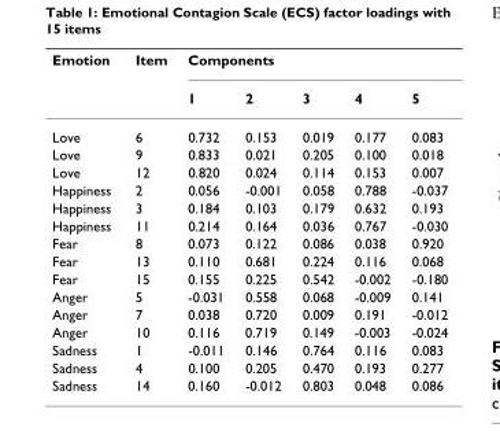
<table><thead><tr><td rowspan="2">Emotion</td><td rowspan="2">Item</td><td colspan="5">Components</td></tr><tr><td>1</td><td>2</td><td>3</td><td>4</td><td>5</td></tr></thead><tbody><tr><td>Love</td><td>6</td><td>0.732</td><td>0.153</td><td>0.019</td><td>0.177</td><td>0.083</td></tr><tr><td>Love</td><td>9</td><td>0.833</td><td>0.021</td><td>0.205</td><td>0.100</td><td>0.018</td></tr><tr><td>Love</td><td>12</td><td>0.820</td><td>0.024</td><td>0.114</td><td>0.153</td><td>0.007</td></tr><tr><td>Happiness</td><td>2</td><td>0.056</td><td>-0.001</td><td>0.058</td><td>0.788</td><td>-0.037</td></tr><tr><td>Happiness</td><td>3</td><td>0.184</td><td>0.103</td><td>0.179</td><td>0.632</td><td>0.193</td></tr><tr><td>Happiness</td><td>11</td><td>0.214</td><td>0.164</td><td>0.036</td><td>0.767</td><td>-0.030</td></tr><tr><td>Fear</td><td>8</td><td>0.073</td><td>0.122</td><td>0.086</td><td>0.038</td><td>0.920</td></tr><tr><td>Fear</td><td>13</td><td>0.110</td><td>0.681</td><td>0.224</td><td>0.116</td><td>0.068</td></tr><tr><td>Fear</td><td>15</td><td>0.155</td><td>0.225</td><td>0.542</td><td>-0.002</td><td>-0.180</td></tr><tr><td>Anger</td><td>5</td><td>-0.031</td><td>0.558</td><td>0.068</td><td>-0.009</td><td>0.141</td></tr><tr><td>Anger</td><td>7</td><td>0.038</td><td>0.720</td><td>0.009</td><td>0.191</td><td>-0.012</td></tr><tr><td>Anger</td><td>10</td><td>0.116</td><td>0.719</td><td>0.149</td><td>-0.003</td><td>-0.024</td></tr><tr><td>Sadness</td><td>1</td><td>-0.011</td><td>0.146</td><td>0.764</td><td>0.116</td><td>0.083</td></tr><tr><td>Sadness</td><td>4</td><td>0.100</td><td>0.205</td><td>0.470</td><td>0.193</td><td>0.277</td></tr><tr><td>Sadness</td><td>14</td><td>0.160</td><td>-0.012</td><td>0.803</td><td>0.048</td><td>0.086</td></tr></tbody></table>